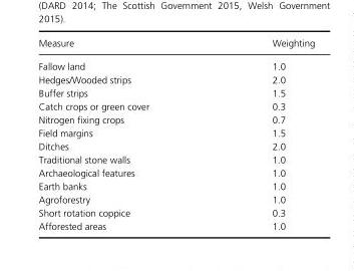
<table><thead><tr><td>Measure</td><td>Weighting</td></tr></thead><tbody><tr><td>Fallow land</td><td>1.0</td></tr><tr><td>Hedges/Wooded strips</td><td>2.0</td></tr><tr><td>Buffer strips</td><td>1.5</td></tr><tr><td>Catch crops or green cover</td><td>0.3</td></tr><tr><td>Nitrogen fixing crops</td><td>0.7</td></tr><tr><td>Field margins</td><td>1.5</td></tr><tr><td>Ditches</td><td>2.0</td></tr><tr><td>Traditional stone walls</td><td>1.0</td></tr><tr><td>Archaeological features</td><td>1.0</td></tr><tr><td>Earth banks</td><td>1.0</td></tr><tr><td>Agroforestry</td><td>1.0</td></tr><tr><td>Short rotation coppice</td><td>0.3</td></tr><tr><td>Afforested areas</td><td>1.0</td></tr></tbody></table>